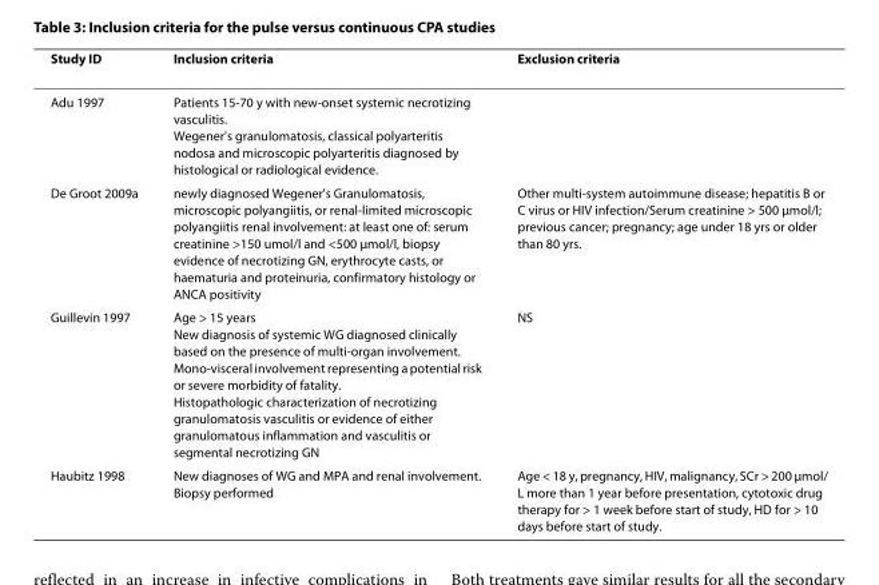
<table><thead><tr><td>Study ID</td><td>Inclusion criteria</td><td>Exclusion criteria</td></tr></thead><tbody><tr><td>Adu 1997</td><td>Patients 15-70 y with new-onset systemic necrotizing vasculitis. Wegener&#x27;s granulomatosis, classical polyarteritis nodosa and microscopic polyarteritis diagnosed by histological or radiological evidence.</td><td></td></tr><tr><td>De Groot 2009a</td><td>newly diagnosed Wegener&#x27;s Granulomatosis, microscopic polyangiitis, or renal-limited microscopic polyangiitis renal involvement: at least one of: serum creatinine &gt;150 umol/l and &lt;500 μmol/l, biopsy evidence of necrotizing GN, erythrocyte casts, or haematuria and proteinuria, confirmatory histology or ANCA positivity</td><td>Other multi-system autoimmune disease; hepatitis B or C virus or HIV infection/Serum creatinine &gt; 500 μmol/l; previous cancer; pregnancy; age under 18 yrs or older than 80 yrs.</td></tr><tr><td>Guillevin 1997</td><td>Age &gt; 15 years New diagnosis of systemic WG diagnosed clinically based on the presence of multi-organ involvement. Mono-visceral involvement representing a potential risk or severe morbidity of fatality. Histopathologic characterization of necrotizing granulomatosis vasculitis or evidence of either granulomatous inflammation and vasculitis or segmental necrotizing GN</td><td>NS</td></tr><tr><td>Haubitz 1998</td><td>New diagnoses of WG and MPA and renal involvement. Biopsy performed</td><td>Age &lt; 18 y, pregnancy, HIV, malignancy, SCr &gt; 200 μmol/ L more than 1 year before presentation, cytotoxic drug therapy for &gt; 1 week before start of study, HD for &gt; 10 days before start of study.</td></tr></tbody></table>